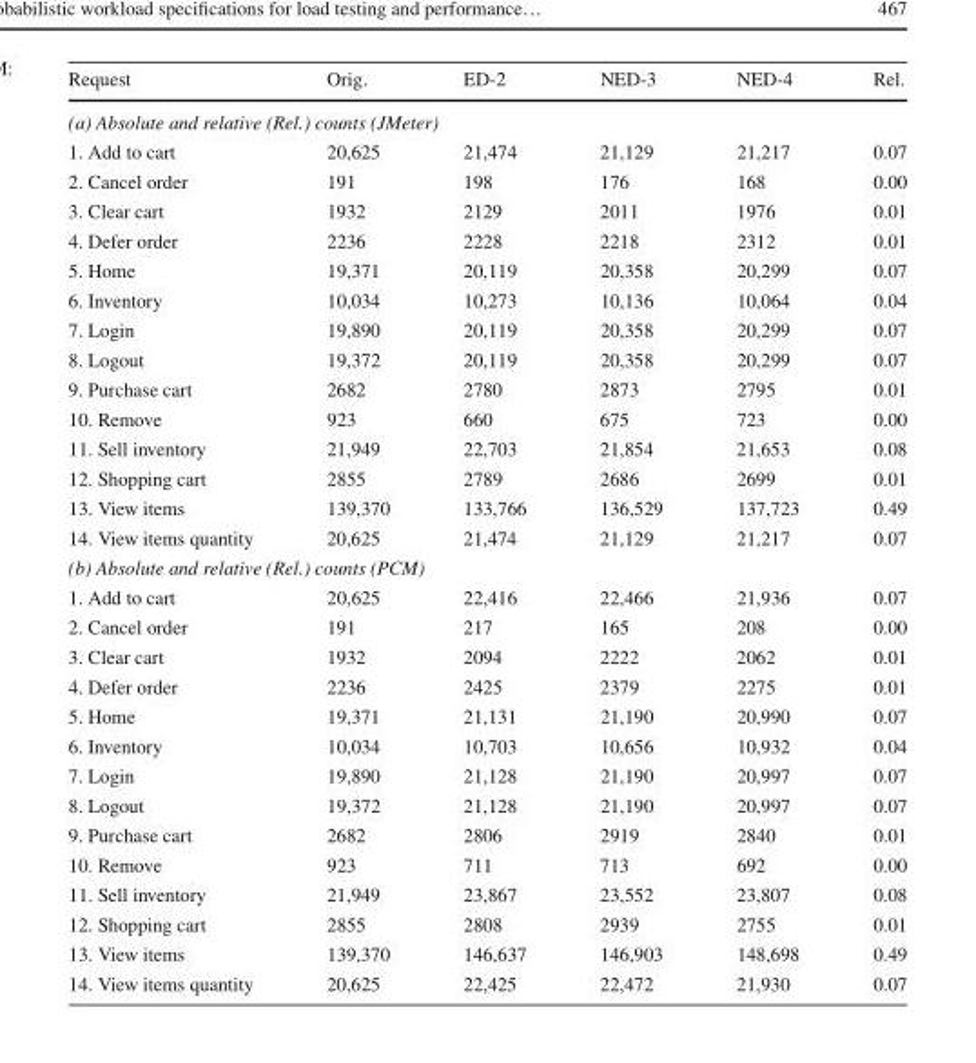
<table><thead><tr><td>Request</td><td>Orig.</td><td>ED-2</td><td>NED-3</td><td>NED-4</td><td>Rel.</td></tr></thead><tbody><tr><td colspan="6">(a) Absolute and relative (Rel.) counts (JMeter)</td></tr><tr><td>1. Add to cart</td><td>20,625</td><td>21,474</td><td>21,129</td><td>21,217</td><td>0.07</td></tr><tr><td>2. Cancel order</td><td>191</td><td>198</td><td>176</td><td>168</td><td>0.00</td></tr><tr><td>3. Clear cart</td><td>1932</td><td>2129</td><td>2011</td><td>1976</td><td>0.01</td></tr><tr><td>4. Defer order</td><td>2236</td><td>2228</td><td>2218</td><td>2312</td><td>0.01</td></tr><tr><td>5. Home</td><td>19,371</td><td>20,119</td><td>20,358</td><td>20,299</td><td>0.07</td></tr><tr><td>6. Inventory</td><td>10,034</td><td>10,273</td><td>10,136</td><td>10,064</td><td>0.04</td></tr><tr><td>7. Login</td><td>19,890</td><td>20,119</td><td>20,358</td><td>20,299</td><td>0.07</td></tr><tr><td>8. Logout</td><td>19,372</td><td>20,119</td><td>20,358</td><td>20,299</td><td>0.07</td></tr><tr><td>9. Purchase cart</td><td>2682</td><td>2780</td><td>2873</td><td>2795</td><td>0.01</td></tr><tr><td>10. Remove</td><td>923</td><td>660</td><td>675</td><td>723</td><td>0.00</td></tr><tr><td>11. Sell inventory</td><td>21,949</td><td>22,703</td><td>21,854</td><td>21,653</td><td>0.08</td></tr><tr><td>12. Shopping cart</td><td>2855</td><td>2789</td><td>2686</td><td>2699</td><td>0.01</td></tr><tr><td>13. View items</td><td>139,370</td><td>133,766</td><td>136,529</td><td>137,723</td><td>0.49</td></tr><tr><td>14. View items quantity</td><td>20,625</td><td>21,474</td><td>21,129</td><td>21,217</td><td>0.07</td></tr><tr><td colspan="6">(b) Absolute and relative (Rel.) counts (PCM)</td></tr><tr><td>1. Add to cart</td><td>20,625</td><td>22,416</td><td>22,466</td><td>21,936</td><td>0.07</td></tr><tr><td>2. Cancel order</td><td>191</td><td>217</td><td>165</td><td>208</td><td>0.00</td></tr><tr><td>3. Clear cart</td><td>1932</td><td>2094</td><td>2222</td><td>2062</td><td>0.01</td></tr><tr><td>4. Defer order</td><td>2236</td><td>2425</td><td>2379</td><td>2275</td><td>0.01</td></tr><tr><td>5. Home</td><td>19,371</td><td>21,131</td><td>21,190</td><td>20,990</td><td>0.07</td></tr><tr><td>6. Inventory</td><td>10,034</td><td>10,703</td><td>10,656</td><td>10,932</td><td>0.04</td></tr><tr><td>7. Login</td><td>19,890</td><td>21,128</td><td>21,190</td><td>20,997</td><td>0.07</td></tr><tr><td>8. Logout</td><td>19,372</td><td>21,128</td><td>21,190</td><td>20,997</td><td>0.07</td></tr><tr><td>9. Purchase cart</td><td>2682</td><td>2806</td><td>2919</td><td>2840</td><td>0.01</td></tr><tr><td>10. Remove</td><td>923</td><td>711</td><td>713</td><td>692</td><td>0.00</td></tr><tr><td>11. Sell inventory</td><td>21,949</td><td>23,867</td><td>23,552</td><td>23,807</td><td>0.08</td></tr><tr><td>12. Shopping cart</td><td>2855</td><td>2808</td><td>2939</td><td>2755</td><td>0.01</td></tr><tr><td>13. View items</td><td>139,370</td><td>146,637</td><td>146,903</td><td>148,698</td><td>0.49</td></tr><tr><td>14. View items quantity</td><td>20,625</td><td>22,425</td><td>22,472</td><td>21,930</td><td>0.07</td></tr></tbody></table>